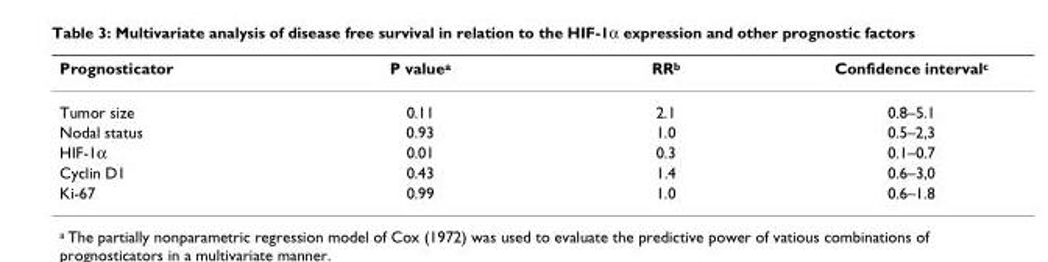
<table><thead><tr><td>Prognosticator</td><td>P valuea</td><td>RRb</td><td>Confidence intervalc</td></tr></thead><tbody><tr><td>Tumor size</td><td>0.11</td><td>2.1</td><td>0.8–5.1</td></tr><tr><td>Nodal status</td><td>0.93</td><td>1.0</td><td>0.5–2,3</td></tr><tr><td>HIF-1α</td><td>0.01</td><td>0.3</td><td>0.1–0.7</td></tr><tr><td>Cyclin D1</td><td>0.43</td><td>1.4</td><td>0.6–3,0</td></tr><tr><td>Ki-67</td><td>0.99</td><td>1.0</td><td>0.6–1.8</td></tr></tbody></table>